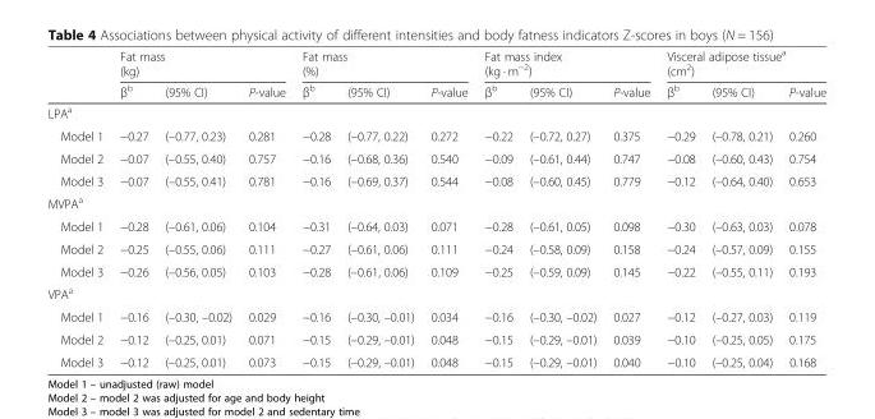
<table><thead><tr><td rowspan="2"></td><td colspan="3">Fat mass (kg)</td><td colspan="3">Fat mass (%)</td><td colspan="3">Fat mass index (kg · m<sup>−2</sup>)</td><td colspan="3">Visceral adipose tissue<sup>a</sup> (cm<sup>2</sup>)</td></tr><tr><td>β<sup>b</sup></td><td>(95% CI)</td><td>P-value</td><td>β<sup>b</sup></td><td>(95% CI)</td><td>P-value</td><td>β<sup>b</sup></td><td>(95% CI)</td><td>P-value</td><td>β<sup>b</sup></td><td>(95% CI)</td><td>P-value</td></tr></thead><tbody><tr><td colspan="13">LPA<sup>a</sup></td></tr><tr><td>Model 1</td><td>−0.27</td><td>(–0.77, 0.23)</td><td>0.281</td><td>−0.28</td><td>(–0.77, 0.22)</td><td>0.272</td><td>−0.22</td><td>(–0.72, 0.27)</td><td>0.375</td><td>−0.29</td><td>(–0.78, 0.21)</td><td>0.260</td></tr><tr><td>Model 2</td><td>−0.07</td><td>(–0.55, 0.40)</td><td>0.757</td><td>−0.16</td><td>(–0.68, 0.36)</td><td>0.540</td><td>−0.09</td><td>(–0.61, 0.44)</td><td>0.747</td><td>−0.08</td><td>(–0.60, 0.43)</td><td>0.754</td></tr><tr><td>Model 3</td><td>−0.07</td><td>(–0.55, 0.41)</td><td>0.781</td><td>−0.16</td><td>(–0.69, 0.37)</td><td>0.544</td><td>−0.08</td><td>(–0.60, 0.45)</td><td>0.779</td><td>−0.12</td><td>(–0.64, 0.40)</td><td>0.653</td></tr><tr><td colspan="13">MVPA<sup>a</sup></td></tr><tr><td>Model 1</td><td>−0.28</td><td>(–0.61, 0.06)</td><td>0.104</td><td>−0.31</td><td>(–0.64, 0.03)</td><td>0.071</td><td>−0.28</td><td>(–0.61, 0.05)</td><td>0.098</td><td>−0.30</td><td>(–0.63, 0.03)</td><td>0.078</td></tr><tr><td>Model 2</td><td>−0.25</td><td>(–0.55, 0.06)</td><td>0.111</td><td>−0.27</td><td>(–0.61, 0.06)</td><td>0.111</td><td>−0.24</td><td>(–0.58, 0.09)</td><td>0.158</td><td>−0.24</td><td>(–0.57, 0.09)</td><td>0.155</td></tr><tr><td>Model 3</td><td>−0.26</td><td>(–0.56, 0.05)</td><td>0.103</td><td>−0.28</td><td>(–0.61, 0.06)</td><td>0.109</td><td>−0.25</td><td>(–0.59, 0.09)</td><td>0.145</td><td>−0.22</td><td>(–0.55, 0.11)</td><td>0.193</td></tr><tr><td colspan="13">VPA<sup>a</sup></td></tr><tr><td>Model 1</td><td>−0.16</td><td>(–0.30, –0.02)</td><td>0.029</td><td>−0.16</td><td>(–0.30, –0.01)</td><td>0.034</td><td>−0.16</td><td>(–0.30, –0.02)</td><td>0.027</td><td>−0.12</td><td>(–0.27, 0.03)</td><td>0.119</td></tr><tr><td>Model 2</td><td>−0.12</td><td>(–0.25, 0.01)</td><td>0.071</td><td>−0.15</td><td>(–0.29, –0.01)</td><td>0.048</td><td>−0.15</td><td>(–0.29, –0.01)</td><td>0.039</td><td>−0.10</td><td>(–0.25, 0.05)</td><td>0.175</td></tr><tr><td>Model 3</td><td>−0.12</td><td>(–0.25, 0.01)</td><td>0.073</td><td>−0.15</td><td>(–0.29, –0.01)</td><td>0.048</td><td>−0.15</td><td>(–0.29, –0.01)</td><td>0.040</td><td>−0.10</td><td>(–0.25, 0.04)</td><td>0.168</td></tr></tbody></table>